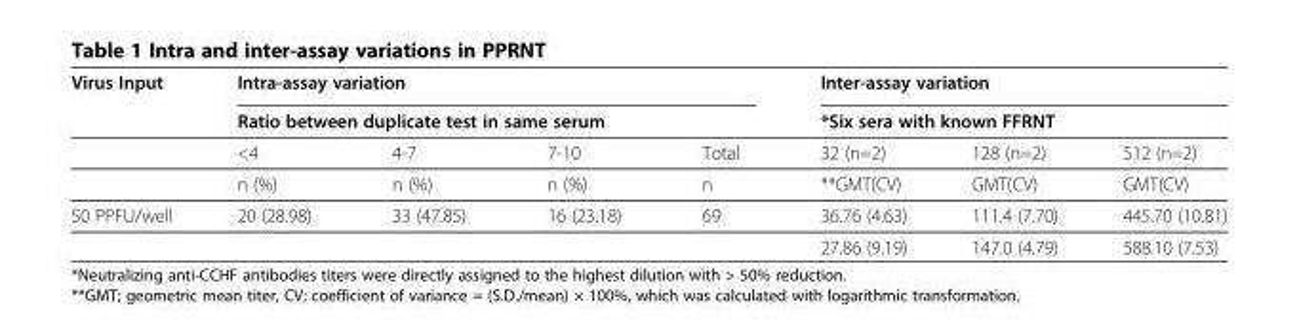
<table><thead><tr><td rowspan="3">Virus Input</td><td rowspan="2" colspan="4">Intra-assay variation Ratio between duplicate test in same serum</td><td rowspan="2" colspan="3">Inter-assay variation *Six sera with known FFRNT</td></tr><tr></tr><tr><td>&lt;4</td><td>4-7</td><td>7-10</td><td>Total</td><td>32 (n=2)</td><td>128 (n=2)</td><td>512 (n=2)</td></tr></thead><tbody><tr><td></td><td>n (%)</td><td>n (%)</td><td>n (%)</td><td>n</td><td>**GMT(CV)</td><td>GMT(CV)</td><td>GMT(CV)</td></tr><tr><td rowspan="2">50 PPFU/well</td><td>20 (28.98)</td><td>33 (47.85)</td><td>16 (23.18)</td><td>69</td><td>36.76 (4.63)</td><td>111.4 (7.70)</td><td>445.70 (10.81)</td></tr><tr><td></td><td></td><td></td><td></td><td>27.86 (9.19)</td><td>147.0 (4.79)</td><td>588.10 (7.53)</td></tr></tbody></table>